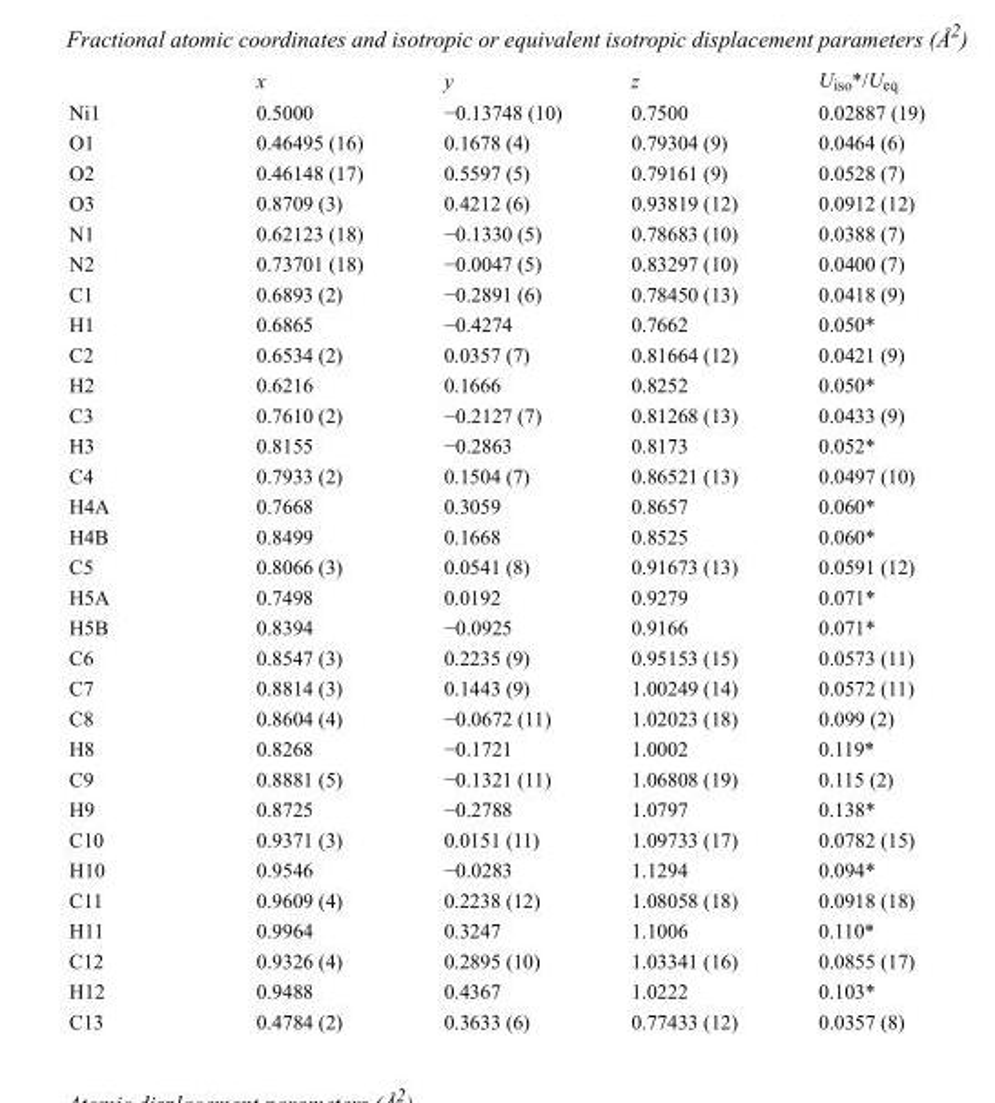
<table><thead><tr><td></td><td>x</td><td>y</td><td>z</td><td>U<sub>iso</sub>*/U<sub>eq</sub></td></tr></thead><tbody><tr><td>Ni1</td><td>0.5000</td><td>−0.13748 (10)</td><td>0.7500</td><td>0.02887 (19)</td></tr><tr><td>O1</td><td>0.46495 (16)</td><td>0.1678 (4)</td><td>0.79304 (9)</td><td>0.0464 (6)</td></tr><tr><td>O2</td><td>0.46148 (17)</td><td>0.5597 (5)</td><td>0.79161 (9)</td><td>0.0528 (7)</td></tr><tr><td>O3</td><td>0.8709 (3)</td><td>0.4212 (6)</td><td>0.93819 (12)</td><td>0.0912 (12)</td></tr><tr><td>N1</td><td>0.62123 (18)</td><td>−0.1330 (5)</td><td>0.78683 (10)</td><td>0.0388 (7)</td></tr><tr><td>N2</td><td>0.73701 (18)</td><td>−0.0047 (5)</td><td>0.83297 (10)</td><td>0.0400 (7)</td></tr><tr><td>C1</td><td>0.6893 (2)</td><td>−0.2891 (6)</td><td>0.78450 (13)</td><td>0.0418 (9)</td></tr><tr><td>H1</td><td>0.6865</td><td>−0.4274</td><td>0.7662</td><td>0.050*</td></tr><tr><td>C2</td><td>0.6534 (2)</td><td>0.0357 (7)</td><td>0.81664 (12)</td><td>0.0421 (9)</td></tr><tr><td>H2</td><td>0.6216</td><td>0.1666</td><td>0.8252</td><td>0.050*</td></tr><tr><td>C3</td><td>0.7610 (2)</td><td>−0.2127 (7)</td><td>0.81268 (13)</td><td>0.0433 (9)</td></tr><tr><td>H3</td><td>0.8155</td><td>−0.2863</td><td>0.8173</td><td>0.052*</td></tr><tr><td>C4</td><td>0.7933 (2)</td><td>0.1504 (7)</td><td>0.86521 (13)</td><td>0.0497 (10)</td></tr><tr><td>H4A</td><td>0.7668</td><td>0.3059</td><td>0.8657</td><td>0.060*</td></tr><tr><td>H4B</td><td>0.8499</td><td>0.1668</td><td>0.8525</td><td>0.060*</td></tr><tr><td>C5</td><td>0.8066 (3)</td><td>0.0541 (8)</td><td>0.91673 (13)</td><td>0.0591 (12)</td></tr><tr><td>H5A</td><td>0.7498</td><td>0.0192</td><td>0.9279</td><td>0.071*</td></tr><tr><td>H5B</td><td>0.8394</td><td>−0.0925</td><td>0.9166</td><td>0.071*</td></tr><tr><td>C6</td><td>0.8547 (3)</td><td>0.2235 (9)</td><td>0.95153 (15)</td><td>0.0573 (11)</td></tr><tr><td>C7</td><td>0.8814 (3)</td><td>0.1443 (9)</td><td>1.00249 (14)</td><td>0.0572 (11)</td></tr><tr><td>C8</td><td>0.8604 (4)</td><td>−0.0672 (11)</td><td>1.02023 (18)</td><td>0.099 (2)</td></tr><tr><td>H8</td><td>0.8268</td><td>−0.1721</td><td>1.0002</td><td>0.119*</td></tr><tr><td>C9</td><td>0.8881 (5)</td><td>−0.1321 (11)</td><td>1.06808 (19)</td><td>0.115 (2)</td></tr><tr><td>H9</td><td>0.8725</td><td>−0.2788</td><td>1.0797</td><td>0.138*</td></tr><tr><td>C10</td><td>0.9371 (3)</td><td>0.0151 (11)</td><td>1.09733 (17)</td><td>0.0782 (15)</td></tr><tr><td>H10</td><td>0.9546</td><td>−0.0283</td><td>1.1294</td><td>0.094*</td></tr><tr><td>C11</td><td>0.9609 (4)</td><td>0.2238 (12)</td><td>1.08058 (18)</td><td>0.0918 (18)</td></tr><tr><td>H11</td><td>0.9964</td><td>0.3247</td><td>1.1006</td><td>0.110*</td></tr><tr><td>C12</td><td>0.9326 (4)</td><td>0.2895 (10)</td><td>1.03341 (16)</td><td>0.0855 (17)</td></tr><tr><td>H12</td><td>0.9488</td><td>0.4367</td><td>1.0222</td><td>0.103*</td></tr><tr><td>C13</td><td>0.4784 (2)</td><td>0.3633 (6)</td><td>0.77433 (12)</td><td>0.0357 (8)</td></tr></tbody></table>